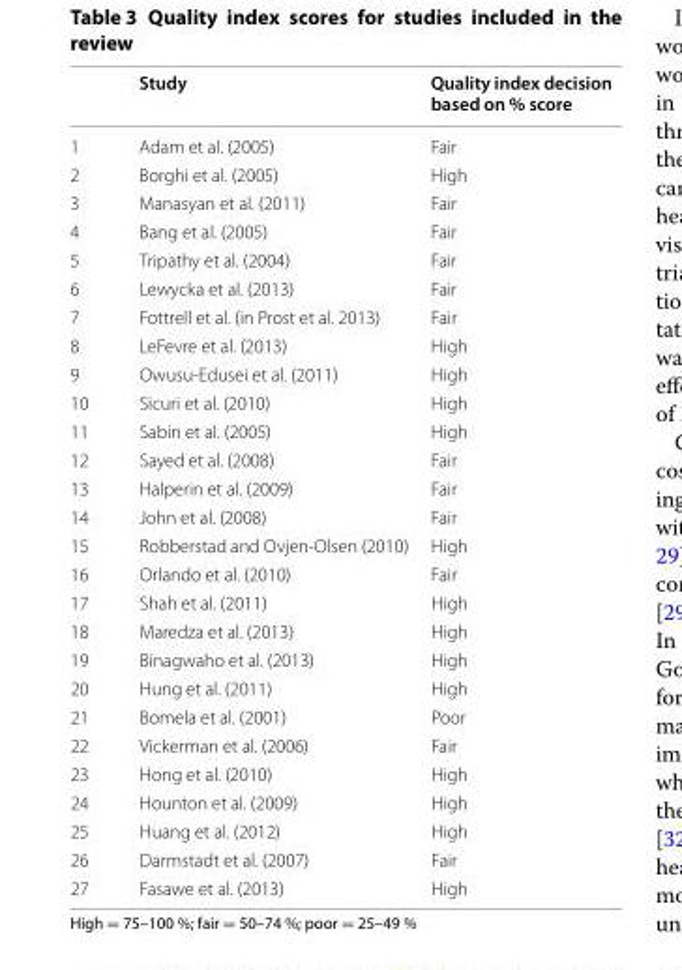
<table><thead><tr><td></td><td>Study</td><td>Quality index decision based on % score</td></tr></thead><tbody><tr><td>1</td><td>Adam et al. (2005)</td><td>Fair</td></tr><tr><td>2</td><td>Borghi et al. (2005)</td><td>High</td></tr><tr><td>3</td><td>Manasyan et al. (2011)</td><td>Fair</td></tr><tr><td>4</td><td>Bang et al. (2005)</td><td>Fair</td></tr><tr><td>5</td><td>Tripathy et al. (2004)</td><td>Fair</td></tr><tr><td>6</td><td>Lewycka et al. (2013)</td><td>Fair</td></tr><tr><td>7</td><td>Fottrell et al. (in Prost et al. 2013)</td><td>Fair</td></tr><tr><td>8</td><td>LeFevre et al. (2013)</td><td>High</td></tr><tr><td>9</td><td>Owusu-Edusei et al. (2011)</td><td>High</td></tr><tr><td>10</td><td>Sicuri et al. (2010)</td><td>High</td></tr><tr><td>11</td><td>Sabin et al. (2005)</td><td>High</td></tr><tr><td>12</td><td>Sayed et al. (2008)</td><td>Fair</td></tr><tr><td>13</td><td>Halperin et al. (2009)</td><td>Fair</td></tr><tr><td>14</td><td>John et al. (2008)</td><td>Fair</td></tr><tr><td>15</td><td>Robberstad and Ovjen-Olsen (2010)</td><td>High</td></tr><tr><td>16</td><td>Orlando et al. (2010)</td><td>Fair</td></tr><tr><td>17</td><td>Shah et al. (2011)</td><td>High</td></tr><tr><td>18</td><td>Maredza et al. (2013)</td><td>High</td></tr><tr><td>19</td><td>Binagwaho et al. (2013)</td><td>High</td></tr><tr><td>20</td><td>Hung et al. (2011)</td><td>High</td></tr><tr><td>21</td><td>Bomela et al. (2001)</td><td>Poor</td></tr><tr><td>22</td><td>Vickerman et al. (2006)</td><td>Fair</td></tr><tr><td>23</td><td>Hong et al. (2010)</td><td>High</td></tr><tr><td>24</td><td>Hounton et al. (2009)</td><td>High</td></tr><tr><td>25</td><td>Huang et al. (2012)</td><td>High</td></tr><tr><td>26</td><td>Darmstadt et al. (2007)</td><td>Fair</td></tr><tr><td>27</td><td>Fasawe et al. (2013)</td><td>High</td></tr></tbody></table>